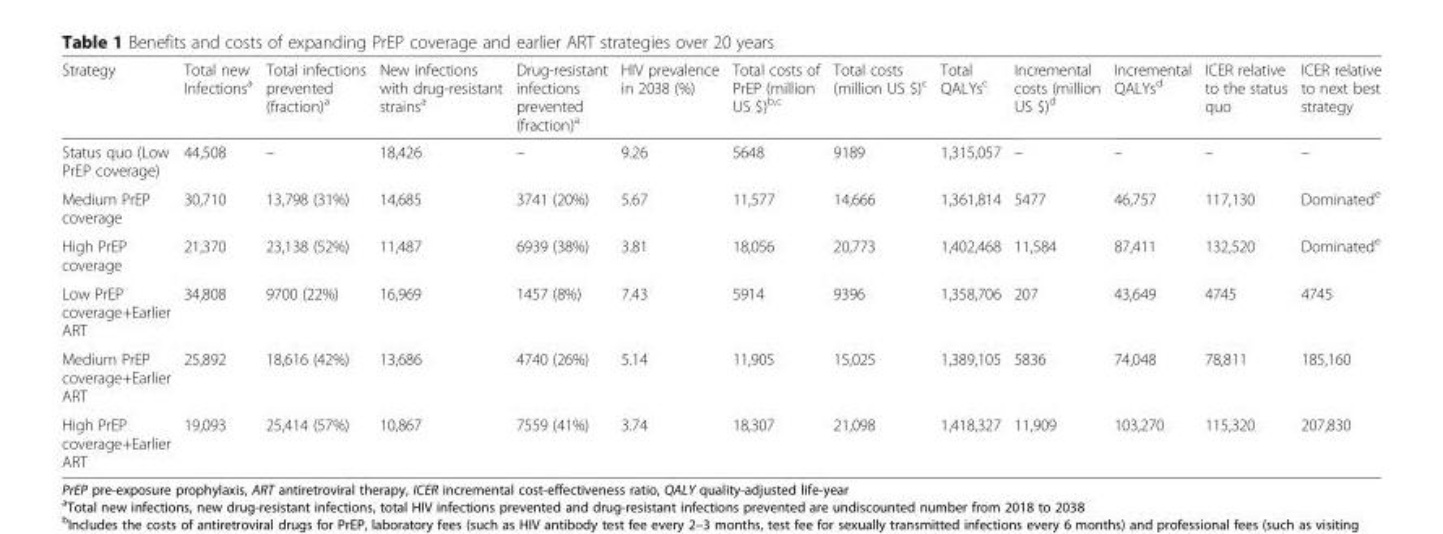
<table><thead><tr><td>Strategy</td><td>Total new Infections<sup>a</sup></td><td>Total infections prevented (fraction)<sup>a</sup></td><td>New infections with drug-resistant strains<sup>a</sup></td><td>Drug-resistant infections prevented (fraction)<sup>a</sup></td><td>HIV prevalence in 2038 (%)</td><td>Total costs of PrEP (million US $)<sup>b,c</sup></td><td>Total costs (million US $)<sup>c</sup></td><td>Total QALYs<sup>c</sup></td><td>Incremental costs (million US $)<sup>d</sup></td><td>Incremental QALYs<sup>d</sup></td><td>ICER relative to the status quo</td><td>ICER relative to next best strategy</td></tr></thead><tbody><tr><td>Status quo (Low PrEP coverage)</td><td>44,508</td><td>–</td><td>18,426</td><td>–</td><td>9.26</td><td>5648</td><td>9189</td><td>1,315,057</td><td>–</td><td>–</td><td>–</td><td>–</td></tr><tr><td>Medium PrEP coverage</td><td>30,710</td><td>13,798 (31%)</td><td>14,685</td><td>3741 (20%)</td><td>5.67</td><td>11,577</td><td>14,666</td><td>1,361,814</td><td>5477</td><td>46,757</td><td>117,130</td><td>Dominated<sup>e</sup></td></tr><tr><td>High PrEP coverage</td><td>21,370</td><td>23,138 (52%)</td><td>11,487</td><td>6939 (38%)</td><td>3.81</td><td>18,056</td><td>20,773</td><td>1,402,468</td><td>11,584</td><td>87,411</td><td>132,520</td><td>Dominated<sup>e</sup></td></tr><tr><td>Low PrEP coverage+Earlier ART</td><td>34,808</td><td>9700 (22%)</td><td>16,969</td><td>1457 (8%)</td><td>7.43</td><td>5914</td><td>9396</td><td>1,358,706</td><td>207</td><td>43,649</td><td>4745</td><td>4745</td></tr><tr><td>Medium PrEP coverage+Earlier ART</td><td>25,892</td><td>18,616 (42%)</td><td>13,686</td><td>4740 (26%)</td><td>5.14</td><td>11,905</td><td>15,025</td><td>1,389,105</td><td>5836</td><td>74,048</td><td>78,811</td><td>185,160</td></tr><tr><td>High PrEP coverage+Earlier ART</td><td>19,093</td><td>25,414 (57%)</td><td>10,867</td><td>7559 (41%)</td><td>3.74</td><td>18,307</td><td>21,098</td><td>1,418,327</td><td>11,909</td><td>103,270</td><td>115,320</td><td>207,830</td></tr></tbody></table>